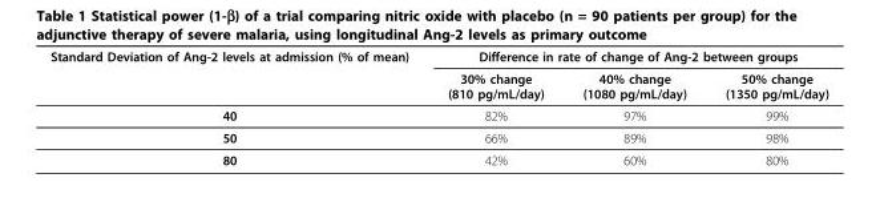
<table><thead><tr><td rowspan="2">Standard Deviation of Ang-2 levels at admission (% of mean)</td><td colspan="3">Difference in rate of change of Ang-2 between groups</td></tr><tr><td>30% change (810 pg/mL/day)</td><td>40% change (1080 pg/mL/day)</td><td>50% change (1350 pg/mL/day)</td></tr></thead><tbody><tr><td>40</td><td>82%</td><td>97%</td><td>99%</td></tr><tr><td>50</td><td>66%</td><td>89%</td><td>98%</td></tr><tr><td>80</td><td>42%</td><td>60%</td><td>80%</td></tr></tbody></table>